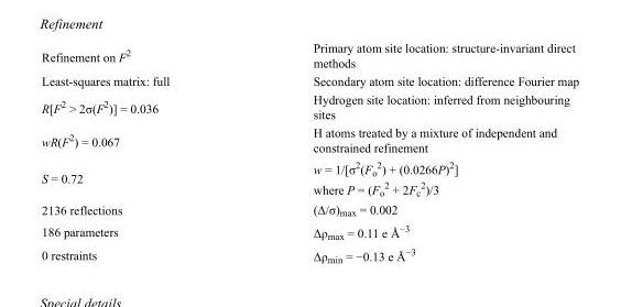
<table><tbody><tr><td>Refinement on F<sup>2</sup></td><td>Primary atom site location: structure-invariant direct methods</td></tr><tr><td>Least-squares matrix: full</td><td>Secondary atom site location: difference Fourier map</td></tr><tr><td>R[F<sup>2</sup> &gt; 2σ(F<sup>2</sup>)] = 0.036</td><td>Hydrogen site location: inferred from neighbouring sites</td></tr><tr><td>wR(F<sup>2</sup>) = 0.067</td><td>H atoms treated by a mixture of independent and constrained refinement</td></tr><tr><td>S = 0.72</td><td>w = 1/[σ<sup>2</sup>(F<sub>o</sub> <sup>2</sup>) + (0.0266P)<sup>2</sup>] where P = (F<sub>o</sub> <sup>2</sup> + 2F<sub>c</sub> <sup>2</sup>)/3</td></tr><tr><td>2136 reflections</td><td>(Δ/σ)<sub>max</sub> = 0.002</td></tr><tr><td>186 parameters</td><td>Δρ<sub>max</sub> = 0.11 e Å<sup>−3</sup></td></tr><tr><td>0 restraints</td><td>Δρ<sub>min</sub> = −0.13 e Å<sup>−3</sup></td></tr></tbody></table>